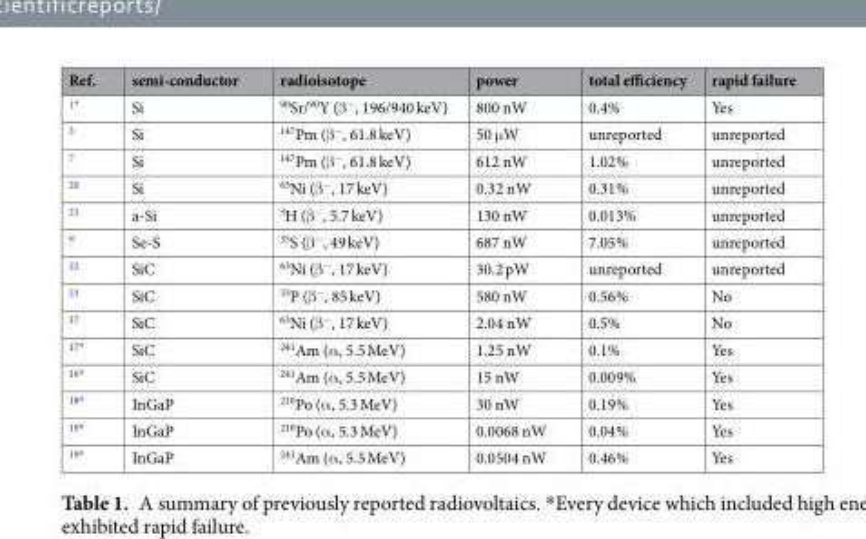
<table><thead><tr><td>Ref.</td><td>semi-conductor</td><td>radioisotope</td><td>power</td><td>total efficiency</td><td>rapid failure</td></tr></thead><tbody><tr><td><sup>1*</sup></td><td>Si</td><td><sup>90</sup>Sr/<sup>90</sup>Y (β<sup>−</sup>, 196/940 keV)</td><td>800 nW</td><td>0.4%</td><td>Yes</td></tr><tr><td><sup>3</sup></td><td>Si</td><td><sup>147</sup>Pm (β<sup>−</sup>, 61.8 keV)</td><td>50 μW</td><td>unreported</td><td>unreported</td></tr><tr><td><sup>7</sup></td><td>Si</td><td><sup>147</sup>Pm (β<sup>−</sup>, 61.8 keV)</td><td>612 nW</td><td>1.02%</td><td>unreported</td></tr><tr><td><sup>20</sup></td><td>Si</td><td><sup>63</sup>Ni (β<sup>−</sup>, 17 keV)</td><td>0.32 nW</td><td>0.31%</td><td>unreported</td></tr><tr><td><sup>21</sup></td><td>a-Si</td><td><sup>3</sup>H (β<sup>−</sup>, 5.7 keV)</td><td>130 nW</td><td>0.013%</td><td>unreported</td></tr><tr><td><sup>9</sup></td><td>Se-S</td><td><sup>35</sup>S (β<sup>−</sup>, 49 keV)</td><td>687 nW</td><td>7.05%</td><td>unreported</td></tr><tr><td><sup>22</sup></td><td>SiC</td><td><sup>63</sup>Ni (β<sup>−</sup>, 17 keV)</td><td>30.2 pW</td><td>unreported</td><td>unreported</td></tr><tr><td><sup>23</sup></td><td>SiC</td><td><sup>33</sup>P (β<sup>−</sup>, 85 keV)</td><td>580 nW</td><td>0.56%</td><td>No</td></tr><tr><td><sup>17</sup></td><td>SiC</td><td><sup>63</sup>Ni (β<sup>−</sup>, 17 keV)</td><td>2.04 nW</td><td>0.5%</td><td>No</td></tr><tr><td><sup>17*</sup></td><td>SiC</td><td><sup>241</sup>Am (α, 5.5 MeV)</td><td>1.25 nW</td><td>0.1%</td><td>Yes</td></tr><tr><td><sup>16*</sup></td><td>SiC</td><td><sup>241</sup>Am (α, 5.5 MeV)</td><td>15 nW</td><td>0.009%</td><td>Yes</td></tr><tr><td><sup>18*</sup></td><td>InGaP</td><td><sup>210</sup>Po (α, 5.3 MeV)</td><td>30 nW</td><td>0.19%</td><td>Yes</td></tr><tr><td><sup>19*</sup></td><td>InGaP</td><td><sup>210</sup>Po (α, 5.3 MeV)</td><td>0.0068 nW</td><td>0.04%</td><td>Yes</td></tr><tr><td><sup>19*</sup></td><td>InGaP</td><td><sup>241</sup>Am (α, 5.5 MeV)</td><td>0.0504 nW</td><td>0.46%</td><td>Yes</td></tr></tbody></table>